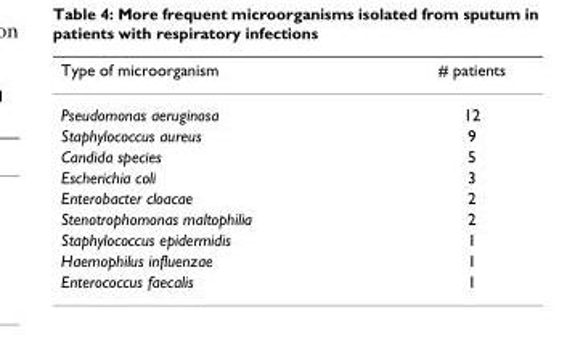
<table><thead><tr><td>Type of microorganism</td><td># patients</td></tr></thead><tbody><tr><td>Pseudomonas aeruginosa</td><td>12</td></tr><tr><td>Staphylococcus aureus</td><td>9</td></tr><tr><td>Candida species</td><td>5</td></tr><tr><td>Escherichia coli</td><td>3</td></tr><tr><td>Enterobacter cloacae</td><td>2</td></tr><tr><td>Stenotrophomonas maltophilia</td><td>2</td></tr><tr><td>Staphylococcus epidermidis</td><td>1</td></tr><tr><td>Haemophilus influenzae</td><td>1</td></tr><tr><td>Enterococcus faecalis</td><td>1</td></tr></tbody></table>